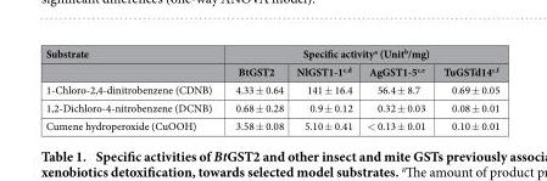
<table><thead><tr><td rowspan="2">Substrate</td><td colspan="4">Specific activity<sup>a</sup> (Unit<sup>b</sup>/mg)</td></tr><tr><td>BtGST2</td><td>NlGST1-1<sup>c</sup>,<sup>d</sup></td><td>AgGST1-5<sup>c</sup>,<sup>e</sup></td><td>TuGSTd14<sup>c</sup>,<sup>f</sup></td></tr></thead><tbody><tr><td>1-Chloro-2,4-dinitrobenzene (CDNB)</td><td>4.33 ± 0.64</td><td>141 ± 16.4</td><td>56.4 ± 8.7</td><td>0.69 ± 0.05</td></tr><tr><td>1,2-Dichloro-4-nitrobenzene (DCNB)</td><td>0.68 ± 0.28</td><td>0.9 ± 0.12</td><td>0.32 ± 0.03</td><td>0.08 ± 0.01</td></tr><tr><td>Cumene hydroperoxide (CuOOH)</td><td>3.58 ± 0.08</td><td>5.10 ± 0.41</td><td>&lt; 0.13 ± 0.01</td><td>0.10 ± 0.01</td></tr></tbody></table>